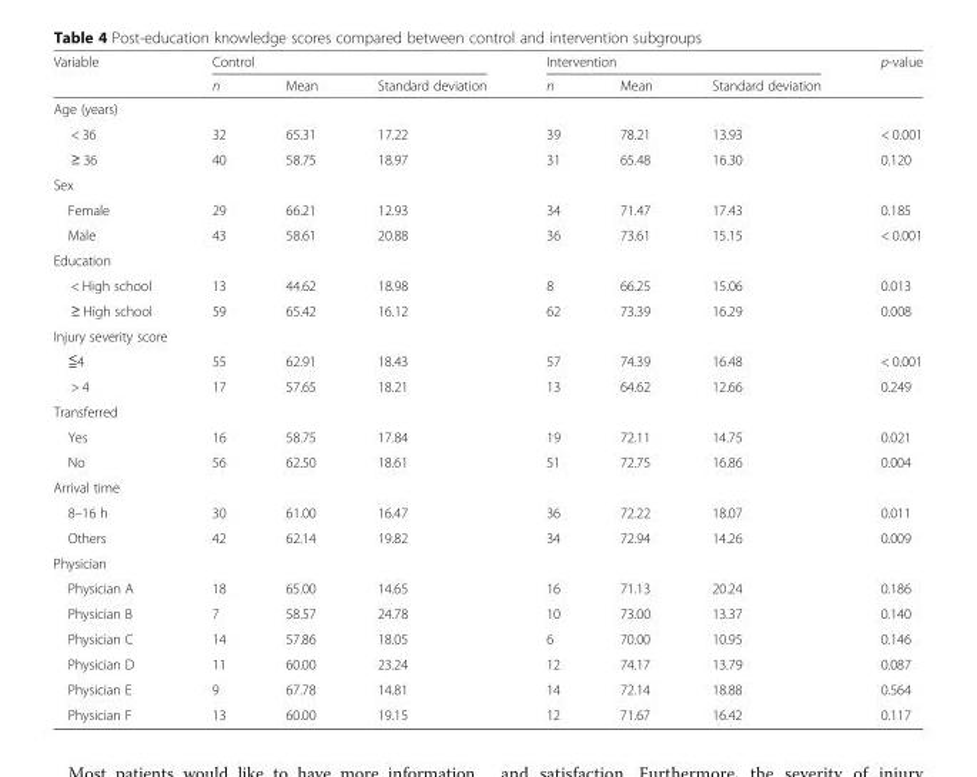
<table><thead><tr><td rowspan="2">Variable</td><td colspan="3">Control</td><td colspan="3">Intervention</td><td rowspan="2">p-value</td></tr><tr><td>n</td><td>Mean</td><td>Standard deviation</td><td>n</td><td>Mean</td><td>Standard deviation</td></tr></thead><tbody><tr><td colspan="8">Age (years)</td></tr><tr><td>&lt; 36</td><td>32</td><td>65.31</td><td>17.22</td><td>39</td><td>78.21</td><td>13.93</td><td>&lt; 0.001</td></tr><tr><td>≥ 36</td><td>40</td><td>58.75</td><td>18.97</td><td>31</td><td>65.48</td><td>16.30</td><td>0.120</td></tr><tr><td colspan="8">Sex</td></tr><tr><td>Female</td><td>29</td><td>66.21</td><td>12.93</td><td>34</td><td>71.47</td><td>17.43</td><td>0.185</td></tr><tr><td>Male</td><td>43</td><td>58.61</td><td>20.88</td><td>36</td><td>73.61</td><td>15.15</td><td>&lt; 0.001</td></tr><tr><td colspan="8">Education</td></tr><tr><td>&lt; High school</td><td>13</td><td>44.62</td><td>18.98</td><td>8</td><td>66.25</td><td>15.06</td><td>0.013</td></tr><tr><td>≥ High school</td><td>59</td><td>65.42</td><td>16.12</td><td>62</td><td>73.39</td><td>16.29</td><td>0.008</td></tr><tr><td colspan="8">Injury severity score</td></tr><tr><td>≦4</td><td>55</td><td>62.91</td><td>18.43</td><td>57</td><td>74.39</td><td>16.48</td><td>&lt; 0.001</td></tr><tr><td>&gt; 4</td><td>17</td><td>57.65</td><td>18.21</td><td>13</td><td>64.62</td><td>12.66</td><td>0.249</td></tr><tr><td colspan="8">Transferred</td></tr><tr><td>Yes</td><td>16</td><td>58.75</td><td>17.84</td><td>19</td><td>72.11</td><td>14.75</td><td>0.021</td></tr><tr><td>No</td><td>56</td><td>62.50</td><td>18.61</td><td>51</td><td>72.75</td><td>16.86</td><td>0.004</td></tr><tr><td colspan="8">Arrival time</td></tr><tr><td>8–16 h</td><td>30</td><td>61.00</td><td>16.47</td><td>36</td><td>72.22</td><td>18.07</td><td>0.011</td></tr><tr><td>Others</td><td>42</td><td>62.14</td><td>19.82</td><td>34</td><td>72.94</td><td>14.26</td><td>0.009</td></tr><tr><td colspan="8">Physician</td></tr><tr><td>Physician A</td><td>18</td><td>65.00</td><td>14.65</td><td>16</td><td>71.13</td><td>20.24</td><td>0.186</td></tr><tr><td>Physician B</td><td>7</td><td>58.57</td><td>24.78</td><td>10</td><td>73.00</td><td>13.37</td><td>0.140</td></tr><tr><td>Physician C</td><td>14</td><td>57.86</td><td>18.05</td><td>6</td><td>70.00</td><td>10.95</td><td>0.146</td></tr><tr><td>Physician D</td><td>11</td><td>60.00</td><td>23.24</td><td>12</td><td>74.17</td><td>13.79</td><td>0.087</td></tr><tr><td>Physician E</td><td>9</td><td>67.78</td><td>14.81</td><td>14</td><td>72.14</td><td>18.88</td><td>0.564</td></tr><tr><td>Physician F</td><td>13</td><td>60.00</td><td>19.15</td><td>12</td><td>71.67</td><td>16.42</td><td>0.117</td></tr></tbody></table>